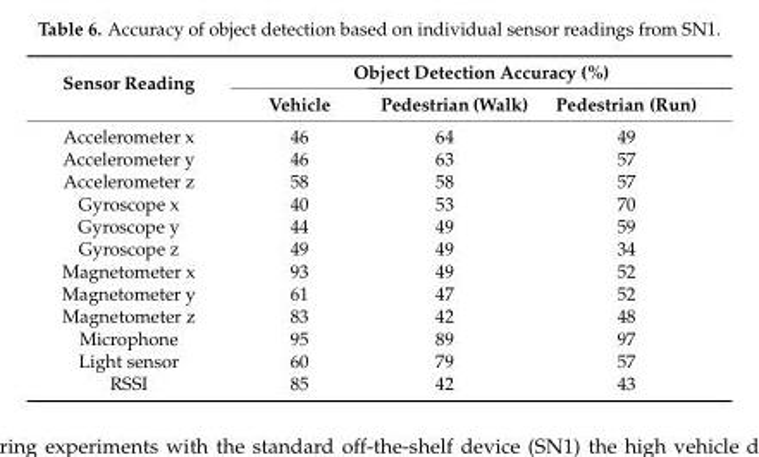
<table><thead><tr><td rowspan="2">Sensor Reading</td><td colspan="3">Object Detection Accuracy (%)</td></tr><tr><td>Vehicle</td><td>Pedestrian (Walk)</td><td>Pedestrian (Run)</td></tr></thead><tbody><tr><td>Accelerometer x</td><td>46</td><td>64</td><td>49</td></tr><tr><td>Accelerometer y</td><td>46</td><td>63</td><td>57</td></tr><tr><td>Accelerometer z</td><td>58</td><td>58</td><td>57</td></tr><tr><td>Gyroscope x</td><td>40</td><td>53</td><td>70</td></tr><tr><td>Gyroscope y</td><td>44</td><td>49</td><td>59</td></tr><tr><td>Gyroscope z</td><td>49</td><td>49</td><td>34</td></tr><tr><td>Magnetometer x</td><td>93</td><td>49</td><td>52</td></tr><tr><td>Magnetometer y</td><td>61</td><td>47</td><td>52</td></tr><tr><td>Magnetometer z</td><td>83</td><td>42</td><td>48</td></tr><tr><td>Microphone</td><td>95</td><td>89</td><td>97</td></tr><tr><td>Light sensor</td><td>60</td><td>79</td><td>57</td></tr><tr><td>RSSI</td><td>85</td><td>42</td><td>43</td></tr></tbody></table>